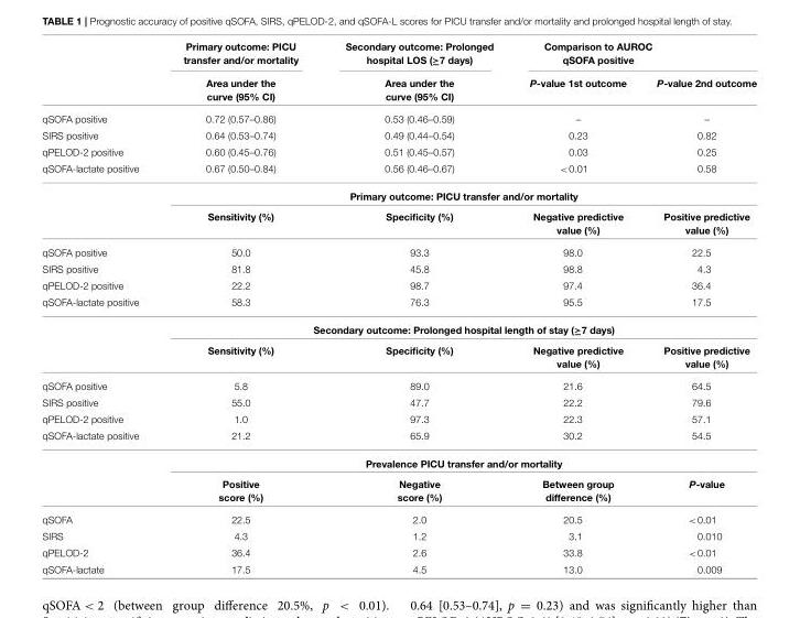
<table><thead><tr><td rowspan="2"></td><td rowspan="2">Primary outcome: PICU transfer and/or mortality Area under the curve (95% CI)</td><td rowspan="2">Secondary outcome: Prolonged hospital LOS (≥7 days) Area under the curve (95% CI)</td><td colspan="2">Comparison to AUROC qSOFA positive</td></tr><tr><td>P-value 1st outcome</td><td>P-value 2nd outcome</td></tr></thead><tbody><tr><td>qSOFA positive</td><td>0.72 (0.57–0.86)</td><td>0.53 (0.46–0.59)</td><td>–</td><td>–</td></tr><tr><td>SIRS positive</td><td>0.64 (0.53–0.74)</td><td>0.49 (0.44–0.54)</td><td>0.23</td><td>0.82</td></tr><tr><td>qPELOD-2 positive</td><td>0.60 (0.45–0.76)</td><td>0.51 (0.45–0.57)</td><td>0.03</td><td>0.25</td></tr><tr><td rowspan="3">qSOFA-lactate positive</td><td>0.67 (0.50–0.84)</td><td>0.56 (0.46–0.67)</td><td>&lt;0.01</td><td>0.58</td></tr><tr><td colspan="4">Primary outcome: PICU transfer and/or mortality</td></tr><tr><td>Sensitivity (%)</td><td>Specificity (%)</td><td>Negative predictive value (%)</td><td>Positive predictive value (%)</td></tr><tr><td>qSOFA positive</td><td>50.0</td><td>93.3</td><td>98.0</td><td>22.5</td></tr><tr><td>SIRS positive</td><td>81.8</td><td>45.8</td><td>98.8</td><td>4.3</td></tr><tr><td>qPELOD-2 positive</td><td>22.2</td><td>98.7</td><td>97.4</td><td>36.4</td></tr><tr><td rowspan="3">qSOFA-lactate positive</td><td>58.3</td><td>76.3</td><td>95.5</td><td>17.5</td></tr><tr><td colspan="4">Secondary outcome: Prolonged hospital length of stay (≥7 days)</td></tr><tr><td>Sensitivity (%)</td><td>Specificity (%)</td><td>Negative predictive value (%)</td><td>Positive predictive value (%)</td></tr><tr><td>qSOFA positive</td><td>5.8</td><td>89.0</td><td>21.6</td><td>64.5</td></tr><tr><td>SIRS positive</td><td>55.0</td><td>47.7</td><td>22.2</td><td>79.6</td></tr><tr><td>qPELOD-2 positive</td><td>1.0</td><td>97.3</td><td>22.3</td><td>57.1</td></tr><tr><td rowspan="3">qSOFA-lactate positive</td><td>21.2</td><td>65.9</td><td>30.2</td><td>54.5</td></tr><tr><td colspan="4">Prevalence PICU transfer and/or mortality</td></tr><tr><td>Positive score (%)</td><td>Negative score (%)</td><td>Between group difference (%)</td><td>P-value</td></tr><tr><td>qSOFA</td><td>22.5</td><td>2.0</td><td>20.5</td><td>&lt;0.01</td></tr><tr><td>SIRS</td><td>4.3</td><td>1.2</td><td>3.1</td><td>0.010</td></tr><tr><td>qPELOD-2</td><td>36.4</td><td>2.6</td><td>33.8</td><td>&lt;0.01</td></tr><tr><td>qSOFA-lactate</td><td>17.5</td><td>4.5</td><td>13.0</td><td>0.009</td></tr></tbody></table>